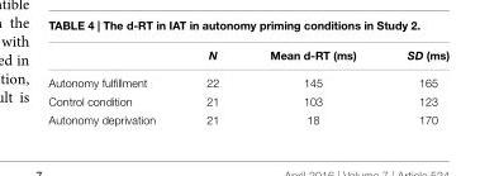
<table><thead><tr><td></td><td>N</td><td>Mean d-RT (ms)</td><td>SD (ms)</td></tr></thead><tbody><tr><td>Autonomy fulfillment</td><td>22</td><td>145</td><td>165</td></tr><tr><td>Control condition</td><td>21</td><td>103</td><td>123</td></tr><tr><td>Autonomy deprivation</td><td>21</td><td>18</td><td>170</td></tr></tbody></table>